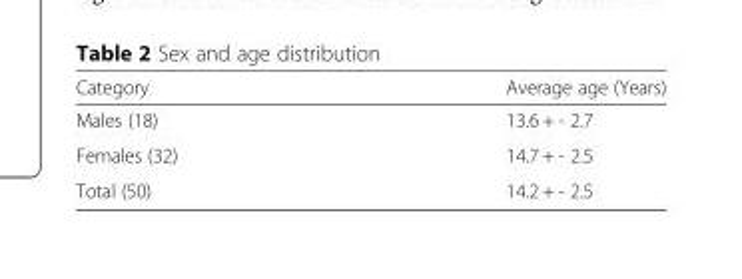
<table><thead><tr><td>Category</td><td>Average age (Years)</td></tr></thead><tbody><tr><td>Males (18)</td><td>13.6 + - 2.7</td></tr><tr><td>Females (32)</td><td>14.7 + - 2.5</td></tr><tr><td>Total (50)</td><td>14.2 + - 2.5</td></tr></tbody></table>